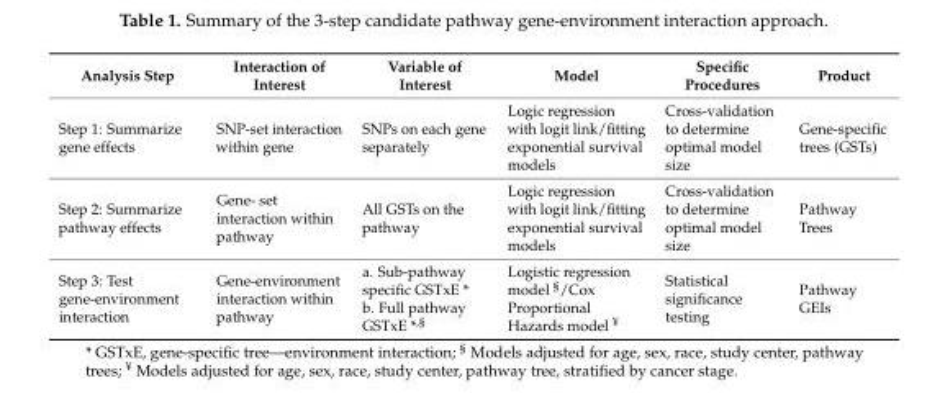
<table><thead><tr><td>Analysis Step</td><td>Interaction of Interest</td><td>Variable of Interest</td><td>Model</td><td>Specific Procedures</td><td>Product</td></tr></thead><tbody><tr><td>Step 1: Summarize gene effects</td><td>SNP-set interaction within gene</td><td>SNPs on each gene separately</td><td>Logic regression with logit link/fitting exponential survival models</td><td>Cross-validation to determine optimal model size</td><td>Gene-specific trees (GSTs)</td></tr><tr><td>Step 2: Summarize pathway effects</td><td>Gene- set interaction within pathway</td><td>All GSTs on the pathway</td><td>Logic regression with logit link/fitting exponential survival models</td><td>Cross-validation to determine optimal model size</td><td>Pathway Trees</td></tr><tr><td>Step 3: Test gene-environment interaction</td><td>Gene-environment interaction within pathway</td><td>a. Sub-pathway specific GSTxE * b. Full pathway GSTxE *<sup>,§</sup></td><td>Logistic regression model <sup>§</sup>/Cox Proportional Hazards model <sup>¥</sup></td><td>Statistical significance testing</td><td>Pathway GEIs</td></tr></tbody></table>